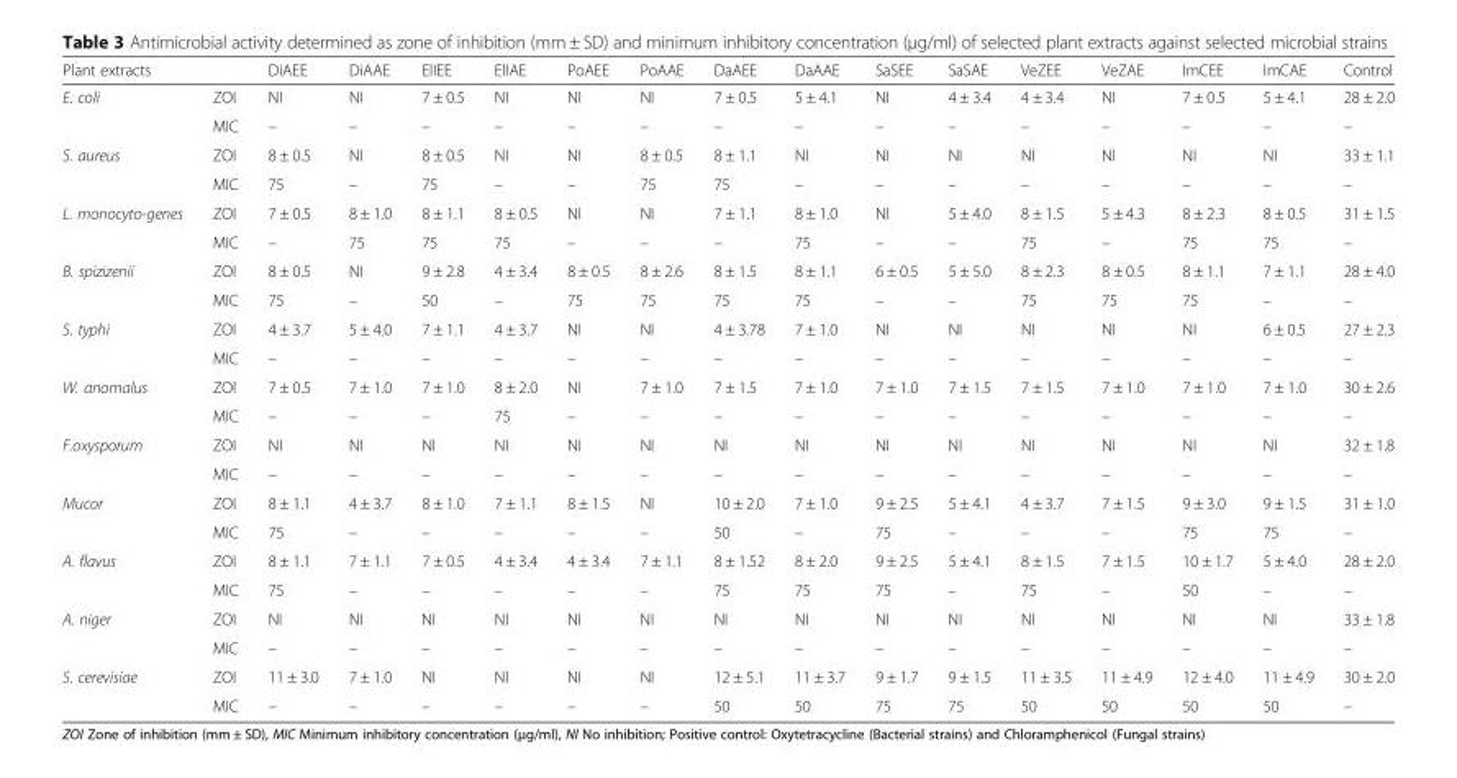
<table><thead><tr><td>Plant extracts</td><td></td><td>DiAEE</td><td>DiAAE</td><td>ElIEE</td><td>ElIAE</td><td>PoAEE</td><td>PoAAE</td><td>DaAEE</td><td>DaAAE</td><td>SaSEE</td><td>SaSAE</td><td>VeZEE</td><td>VeZAE</td><td>ImCEE</td><td>ImCAE</td><td>Control</td></tr></thead><tbody><tr><td rowspan="2">E. coli</td><td>ZOI</td><td>NI</td><td>NI</td><td>7 ± 0.5</td><td>NI</td><td>NI</td><td>NI</td><td>7 ± 0.5</td><td>5 ± 4.1</td><td>NI</td><td>4 ± 3.4</td><td>4 ± 3.4</td><td>NI</td><td>7 ± 0.5</td><td>5 ± 4.1</td><td>28 ± 2.0</td></tr><tr><td>MIC</td><td>–</td><td>–</td><td>–</td><td>–</td><td>–</td><td>–</td><td>–</td><td>–</td><td>–</td><td>–</td><td>–</td><td>–</td><td>–</td><td>–</td><td>–</td></tr><tr><td rowspan="2">S. aureus</td><td>ZOI</td><td>8 ± 0.5</td><td>NI</td><td>8 ± 0.5</td><td>NI</td><td>NI</td><td>8 ± 0.5</td><td>8 ± 1.1</td><td>NI</td><td>NI</td><td>NI</td><td>NI</td><td>NI</td><td>NI</td><td>NI</td><td>33 ± 1.1</td></tr><tr><td>MIC</td><td>75</td><td>–</td><td>75</td><td>–</td><td>–</td><td>75</td><td>75</td><td>–</td><td>–</td><td>–</td><td>–</td><td>–</td><td>–</td><td>–</td><td>–</td></tr><tr><td rowspan="2">L. monocyto-genes</td><td>ZOI</td><td>7 ± 0.5</td><td>8 ± 1.0</td><td>8 ± 1.1</td><td>8 ± 0.5</td><td>NI</td><td>NI</td><td>7 ± 1.1</td><td>8 ± 1.0</td><td>NI</td><td>5 ± 4.0</td><td>8 ± 1.5</td><td>5 ± 4.3</td><td>8 ± 2.3</td><td>8 ± 0.5</td><td>31 ± 1.5</td></tr><tr><td>MIC</td><td>–</td><td>75</td><td>75</td><td>75</td><td>–</td><td>–</td><td>–</td><td>75</td><td>–</td><td>–</td><td>75</td><td>–</td><td>75</td><td>75</td><td>–</td></tr><tr><td rowspan="2">B. spizizenii</td><td>ZOI</td><td>8 ± 0.5</td><td>NI</td><td>9 ± 2.8</td><td>4 ± 3.4</td><td>8 ± 0.5</td><td>8 ± 2.6</td><td>8 ± 1.5</td><td>8 ± 1.1</td><td>6 ± 0.5</td><td>5 ± 5.0</td><td>8 ± 2.3</td><td>8 ± 0.5</td><td>8 ± 1.1</td><td>7 ± 1.1</td><td>28 ± 4.0</td></tr><tr><td>MIC</td><td>75</td><td>–</td><td>50</td><td>–</td><td>75</td><td>75</td><td>75</td><td>75</td><td>–</td><td>–</td><td>75</td><td>75</td><td>75</td><td>–</td><td>–</td></tr><tr><td rowspan="2">S. typhi</td><td>ZOI</td><td>4 ± 3.7</td><td>5 ± 4.0</td><td>7 ± 1.1</td><td>4 ± 3.7</td><td>NI</td><td>NI</td><td>4 ± 3.78</td><td>7 ± 1.0</td><td>NI</td><td>NI</td><td>NI</td><td>NI</td><td>NI</td><td>6 ± 0.5</td><td>27 ± 2.3</td></tr><tr><td>MIC</td><td>–</td><td>–</td><td>–</td><td>–</td><td>–</td><td>–</td><td>–</td><td>–</td><td>–</td><td>–</td><td>–</td><td>–</td><td>–</td><td>–</td><td>–</td></tr><tr><td rowspan="2">W. anomalus</td><td>ZOI</td><td>7 ± 0.5</td><td>7 ± 1.0</td><td>7 ± 1.0</td><td>8 ± 2.0</td><td>NI</td><td>7 ± 1.0</td><td>7 ± 1.5</td><td>7 ± 1.0</td><td>7 ± 1.0</td><td>7 ± 1.5</td><td>7 ± 1.5</td><td>7 ± 1.0</td><td>7 ± 1.0</td><td>7 ± 1.0</td><td>30 ± 2.6</td></tr><tr><td>MIC</td><td>–</td><td>–</td><td>–</td><td>75</td><td>–</td><td>–</td><td>–</td><td>–</td><td>–</td><td>–</td><td>–</td><td>–</td><td>–</td><td>–</td><td>–</td></tr><tr><td rowspan="2">F.oxysporum</td><td>ZOI</td><td>NI</td><td>NI</td><td>NI</td><td>NI</td><td>NI</td><td>NI</td><td>NI</td><td>NI</td><td>NI</td><td>NI</td><td>NI</td><td>NI</td><td>NI</td><td>NI</td><td>32 ± 1.8</td></tr><tr><td>MIC</td><td>–</td><td>–</td><td>–</td><td>–</td><td>–</td><td>–</td><td>–</td><td>–</td><td>–</td><td>–</td><td>–</td><td>–</td><td>–</td><td>–</td><td>–</td></tr><tr><td rowspan="2">Mucor</td><td>ZOI</td><td>8 ± 1.1</td><td>4 ± 3.7</td><td>8 ± 1.0</td><td>7 ± 1.1</td><td>8 ± 1.5</td><td>NI</td><td>10 ± 2.0</td><td>7 ± 1.0</td><td>9 ± 2.5</td><td>5 ± 4.1</td><td>4 ± 3.7</td><td>7 ± 1.5</td><td>9 ± 3.0</td><td>9 ± 1.5</td><td>31 ± 1.0</td></tr><tr><td>MIC</td><td>75</td><td>–</td><td>–</td><td>–</td><td>–</td><td>–</td><td>50</td><td>–</td><td>75</td><td>–</td><td>–</td><td>–</td><td>75</td><td>75</td><td>–</td></tr><tr><td rowspan="2">A. flavus</td><td>ZOI</td><td>8 ± 1.1</td><td>7 ± 1.1</td><td>7 ± 0.5</td><td>4 ± 3.4</td><td>4 ± 3.4</td><td>7 ± 1.1</td><td>8 ± 1.52</td><td>8 ± 2.0</td><td>9 ± 2.5</td><td>5 ± 4.1</td><td>8 ± 1.5</td><td>7 ± 1.5</td><td>10 ± 1.7</td><td>5 ± 4.0</td><td>28 ± 2.0</td></tr><tr><td>MIC</td><td>75</td><td>–</td><td>–</td><td>–</td><td>–</td><td>–</td><td>75</td><td>75</td><td>75</td><td>–</td><td>75</td><td>–</td><td>50</td><td>–</td><td>–</td></tr><tr><td rowspan="2">A. niger</td><td>ZOI</td><td>NI</td><td>NI</td><td>NI</td><td>NI</td><td>NI</td><td>NI</td><td>NI</td><td>NI</td><td>NI</td><td>NI</td><td>NI</td><td>NI</td><td>NI</td><td>NI</td><td>33 ± 1.8</td></tr><tr><td>MIC</td><td>–</td><td>–</td><td>–</td><td>–</td><td>–</td><td>–</td><td>–</td><td>–</td><td>–</td><td>–</td><td>–</td><td>–</td><td>–</td><td>–</td><td>–</td></tr><tr><td rowspan="2">S. cerevisiae</td><td>ZOI</td><td>11 ± 3.0</td><td>7 ± 1.0</td><td>NI</td><td>NI</td><td>NI</td><td>NI</td><td>12 ± 5.1</td><td>11 ± 3.7</td><td>9 ± 1.7</td><td>9 ± 1.5</td><td>11 ± 3.5</td><td>11 ± 4.9</td><td>12 ± 4.0</td><td>11 ± 4.9</td><td>30 ± 2.0</td></tr><tr><td>MIC</td><td>–</td><td>–</td><td>–</td><td>–</td><td>–</td><td>–</td><td>50</td><td>50</td><td>75</td><td>75</td><td>50</td><td>50</td><td>50</td><td>50</td><td>–</td></tr></tbody></table>